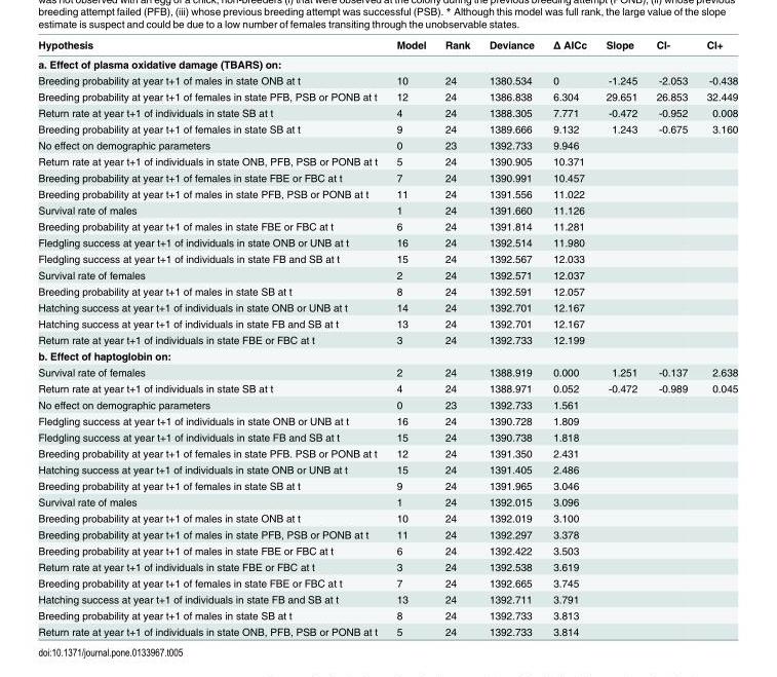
<table><thead><tr><td>Hypothesis</td><td>Model</td><td>Rank</td><td>Deviance</td><td>Δ AICc</td><td>Slope</td><td>CI-</td><td>CI+</td></tr></thead><tbody><tr><td colspan="8">a. Effect of plasma oxidative damage (TBARS) on:</td></tr><tr><td>Breeding probability at year t+1 of males in state ONB at t</td><td>10</td><td>24</td><td>1380.534</td><td>0</td><td>-1.245</td><td>-2.053</td><td>-0.438</td></tr><tr><td>Breeding probability at year t+1 of females in state PFB, PSB or PONB at t</td><td>12</td><td>24</td><td>1386.838</td><td>6.304</td><td>29.651</td><td>26.853</td><td>32.449</td></tr><tr><td>Return rate at year t+1 of individuals in state SB at t</td><td>4</td><td>24</td><td>1388.305</td><td>7.771</td><td>-0.472</td><td>-0.952</td><td>0.008</td></tr><tr><td>Breeding probability at year t+1 of females in state SB at t</td><td>9</td><td>24</td><td>1389.666</td><td>9.132</td><td>1.243</td><td>-0.675</td><td>3.160</td></tr><tr><td>No effect on demographic parameters</td><td>0</td><td>23</td><td>1392.733</td><td>9.946</td><td></td><td></td><td></td></tr><tr><td>Return rate at year t+1 of individuals in state ONB, PFB, PSB or PONB at t</td><td>5</td><td>24</td><td>1390.905</td><td>10.371</td><td></td><td></td><td></td></tr><tr><td>Breeding probability at year t+1 of females in state FBE or FBC at t</td><td>7</td><td>24</td><td>1390.991</td><td>10.457</td><td></td><td></td><td></td></tr><tr><td>Breeding probability at year t+1 of males in state PFB, PSB or PONB at t</td><td>11</td><td>24</td><td>1391.556</td><td>11.022</td><td></td><td></td><td></td></tr><tr><td>Survival rate of males</td><td>1</td><td>24</td><td>1391.660</td><td>11.126</td><td></td><td></td><td></td></tr><tr><td>Breeding probability at year t+1 of males in state FBE or FBC at t</td><td>6</td><td>24</td><td>1391.814</td><td>11.281</td><td></td><td></td><td></td></tr><tr><td>Fledgling success at year t+1 of individuals in state ONB or UNB at t</td><td>16</td><td>24</td><td>1392.514</td><td>11.980</td><td></td><td></td><td></td></tr><tr><td>Fledgling success at year t+1 of individuals in state FB and SB at t</td><td>15</td><td>24</td><td>1392.567</td><td>12.033</td><td></td><td></td><td></td></tr><tr><td>Survival rate of females</td><td>2</td><td>24</td><td>1392.571</td><td>12.037</td><td></td><td></td><td></td></tr><tr><td>Breeding probability at year t+1 of males in state SB at t</td><td>8</td><td>24</td><td>1392.591</td><td>12.057</td><td></td><td></td><td></td></tr><tr><td>Hatching success at year t+1 of individuals in state ONB or UNB at t</td><td>14</td><td>24</td><td>1392.701</td><td>12.167</td><td></td><td></td><td></td></tr><tr><td>Hatching success at year t+1 of individuals in state FB and SB at t</td><td>13</td><td>24</td><td>1392.701</td><td>12.167</td><td></td><td></td><td></td></tr><tr><td>Return rate at year t+1 of individuals in state FBE or FBC at t</td><td>3</td><td>24</td><td>1392.733</td><td>12.199</td><td></td><td></td><td></td></tr><tr><td colspan="8">b. Effect of haptoglobin on:</td></tr><tr><td>Survival rate of females</td><td>2</td><td>24</td><td>1388.919</td><td>0.000</td><td>1.251</td><td>-0.137</td><td>2.638</td></tr><tr><td>Return rate at year t+1 of individuals in state SB at t</td><td>4</td><td>24</td><td>1388.971</td><td>0.052</td><td>-0.472</td><td>-0.989</td><td>0.045</td></tr><tr><td>No effect on demographic parameters</td><td>0</td><td>23</td><td>1392.733</td><td>1.561</td><td></td><td></td><td></td></tr><tr><td>Fledgling success at year t+1 of individuals in state ONB or UNB at t</td><td>16</td><td>24</td><td>1390.728</td><td>1.809</td><td></td><td></td><td></td></tr><tr><td>Fledgling success at year t+1 of individuals in state FB and SB at t</td><td>15</td><td>24</td><td>1390.738</td><td>1.818</td><td></td><td></td><td></td></tr><tr><td>Breeding probability at year t+1 of females in state PFB. PSB or PONB at t</td><td>12</td><td>24</td><td>1391.350</td><td>2.431</td><td></td><td></td><td></td></tr><tr><td>Hatching success at year t+1 of individuals in state ONB or UNB at t</td><td>15</td><td>24</td><td>1391.405</td><td>2.486</td><td></td><td></td><td></td></tr><tr><td>Breeding probability at year t+1 of females in state SB at t</td><td>9</td><td>24</td><td>1391.965</td><td>3.046</td><td></td><td></td><td></td></tr><tr><td>Survival rate of males</td><td>1</td><td>24</td><td>1392.015</td><td>3.096</td><td></td><td></td><td></td></tr><tr><td>Breeding probability at year t+1 of males in state ONB at t</td><td>10</td><td>24</td><td>1392.019</td><td>3.100</td><td></td><td></td><td></td></tr><tr><td>Breeding probability at year t+1 of males in state PFB, PSB or PONB at t</td><td>11</td><td>24</td><td>1392.297</td><td>3.378</td><td></td><td></td><td></td></tr><tr><td>Breeding probability at year t+1 of males in state FBE or FBC at t</td><td>6</td><td>24</td><td>1392.422</td><td>3.503</td><td></td><td></td><td></td></tr><tr><td>Return rate at year t+1 of individuals in state FBE or FBC at t</td><td>3</td><td>24</td><td>1392.538</td><td>3.619</td><td></td><td></td><td></td></tr><tr><td>Breeding probability at year t+1 of females in state FBE or FBC at t</td><td>7</td><td>24</td><td>1392.665</td><td>3.745</td><td></td><td></td><td></td></tr><tr><td>Hatching success at year t+1 of individuals in state FB and SB at t</td><td>13</td><td>24</td><td>1392.711</td><td>3.791</td><td></td><td></td><td></td></tr><tr><td>Breeding probability at year t+1 of males in state SB at t</td><td>8</td><td>24</td><td>1392.733</td><td>3.813</td><td></td><td></td><td></td></tr><tr><td>Return rate at year t+1 of individuals in state ONB, PFB, PSB or PONB at t</td><td>5</td><td>24</td><td>1392.733</td><td>3.814</td><td></td><td></td><td></td></tr></tbody></table>